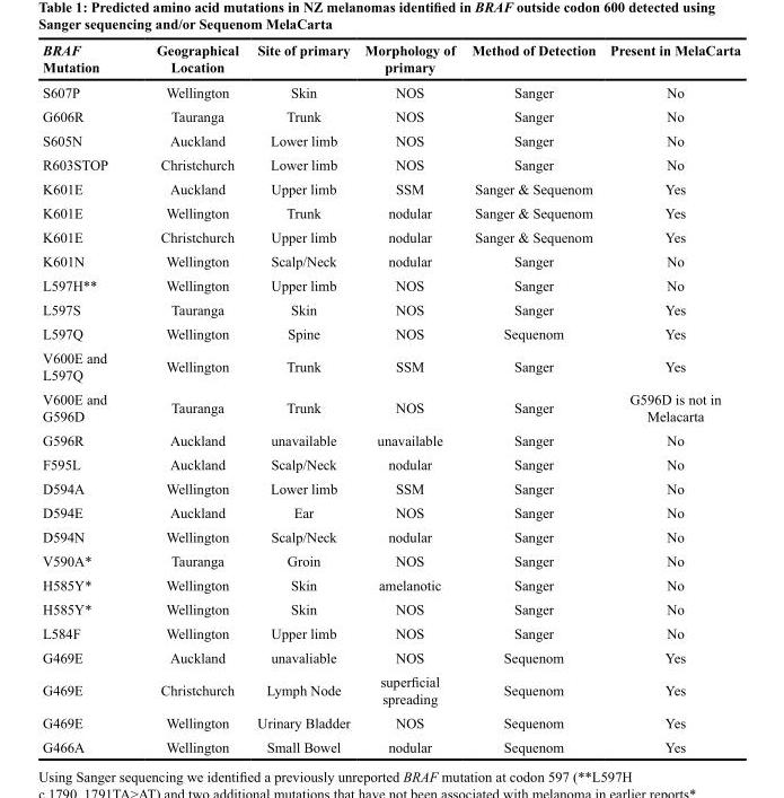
<table><thead><tr><td>BRAF Mutation</td><td>Geographical Location</td><td>Site of primary</td><td>Morphology of primary</td><td>Method of Detection</td><td>Present in MelaCarta</td></tr></thead><tbody><tr><td>S607P</td><td>Wellington</td><td>Skin</td><td>NOS</td><td>Sanger</td><td>No</td></tr><tr><td>G606R</td><td>Tauranga</td><td>Trunk</td><td>NOS</td><td>Sanger</td><td>No</td></tr><tr><td>S605N</td><td>Auckland</td><td>Lower limb</td><td>NOS</td><td>Sanger</td><td>No</td></tr><tr><td>R603STOP</td><td>Christchurch</td><td>Lower limb</td><td>NOS</td><td>Sanger</td><td>No</td></tr><tr><td>K601E</td><td>Auckland</td><td>Upper limb</td><td>SSM</td><td>Sanger &amp; Sequenom</td><td>Yes</td></tr><tr><td>K601E</td><td>Wellington</td><td>Trunk</td><td>nodular</td><td>Sanger &amp; Sequenom</td><td>Yes</td></tr><tr><td>K601E</td><td>Christchurch</td><td>Upper limb</td><td>nodular</td><td>Sanger &amp; Sequenom</td><td>Yes</td></tr><tr><td>K601N</td><td>Wellington</td><td>Scalp/Neck</td><td>nodular</td><td>Sanger</td><td>No</td></tr><tr><td>L597H**</td><td>Wellington</td><td>Upper limb</td><td>NOS</td><td>Sanger</td><td>No</td></tr><tr><td>L597S</td><td>Tauranga</td><td>Skin</td><td>NOS</td><td>Sanger</td><td>Yes</td></tr><tr><td>L597Q</td><td>Wellington</td><td>Spine</td><td>NOS</td><td>Sequenom</td><td>Yes</td></tr><tr><td>V600E and L597Q</td><td>Wellington</td><td>Trunk</td><td>SSM</td><td>Sanger</td><td>Yes</td></tr><tr><td>V600E and G596D</td><td>Tauranga</td><td>Trunk</td><td>NOS</td><td>Sanger</td><td>G596D is not in Melacarta</td></tr><tr><td>G596R</td><td>Auckland</td><td>unavailable</td><td>unavailable</td><td>Sanger</td><td>No</td></tr><tr><td>F595L</td><td>Auckland</td><td>Scalp/Neck</td><td>nodular</td><td>Sanger</td><td>No</td></tr><tr><td>D594A</td><td>Wellington</td><td>Lower limb</td><td>SSM</td><td>Sanger</td><td>No</td></tr><tr><td>D594E</td><td>Auckland</td><td>Ear</td><td>NOS</td><td>Sanger</td><td>No</td></tr><tr><td>D594N</td><td>Wellington</td><td>Scalp/Neck</td><td>nodular</td><td>Sanger</td><td>No</td></tr><tr><td>V590A*</td><td>Tauranga</td><td>Groin</td><td>NOS</td><td>Sanger</td><td>No</td></tr><tr><td>H585Y*</td><td>Wellington</td><td>Skin</td><td>amelanotic</td><td>Sanger</td><td>No</td></tr><tr><td>H585Y*</td><td>Wellington</td><td>Skin</td><td>NOS</td><td>Sanger</td><td>No</td></tr><tr><td>L584F</td><td>Wellington</td><td>Upper limb</td><td>NOS</td><td>Sanger</td><td>No</td></tr><tr><td>G469E</td><td>Auckland</td><td>unavaliable</td><td>NOS</td><td>Sequenom</td><td>Yes</td></tr><tr><td>G469E</td><td>Christchurch</td><td>Lymph Node</td><td>superficial spreading</td><td>Sequenom</td><td>Yes</td></tr><tr><td>G469E</td><td>Wellington</td><td>Urinary Bladder</td><td>NOS</td><td>Sequenom</td><td>Yes</td></tr><tr><td>G466A</td><td>Wellington</td><td>Small Bowel</td><td>nodular</td><td>Sequenom</td><td>Yes</td></tr></tbody></table>